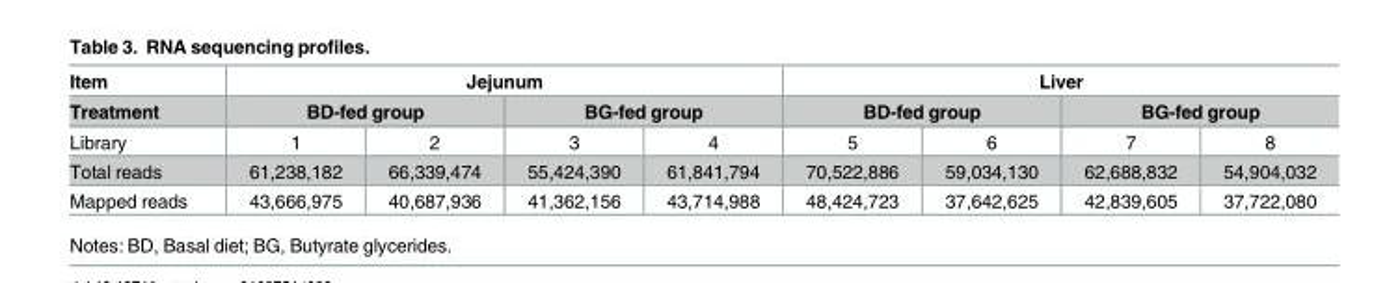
<table><thead><tr><td rowspan="3">Item Treatment Library</td><td colspan="4">Jejunum</td><td colspan="4">Liver</td></tr><tr><td colspan="2">BD-fed group</td><td colspan="2">BG-fed group</td><td colspan="2">BD-fed group</td><td colspan="2">BG-fed group</td></tr><tr><td>1</td><td>2</td><td>3</td><td>4</td><td>5</td><td>6</td><td>7</td><td>8</td></tr></thead><tbody><tr><td>Total reads</td><td>61,238,182</td><td>66,339,474</td><td>55,424,390</td><td>61,841,794</td><td>70,522,886</td><td>59,034,130</td><td>62,688,832</td><td>54,904,032</td></tr><tr><td>Mapped reads</td><td>43,666,975</td><td>40,687,936</td><td>41,362,156</td><td>43,714,988</td><td>48,424,723</td><td>37,642,625</td><td>42,839,605</td><td>37,722,080</td></tr></tbody></table>